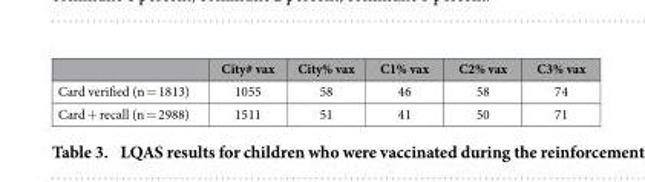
<table><thead><tr><td></td><td>City# vax</td><td>City% vax</td><td>C1% vax</td><td>C2% vax</td><td>C3% vax</td></tr></thead><tbody><tr><td>Card verified (n = 1813)</td><td>1055</td><td>58</td><td>46</td><td>58</td><td>74</td></tr><tr><td>Card + recall (n = 2988)</td><td>1511</td><td>51</td><td>41</td><td>50</td><td>71</td></tr></tbody></table>